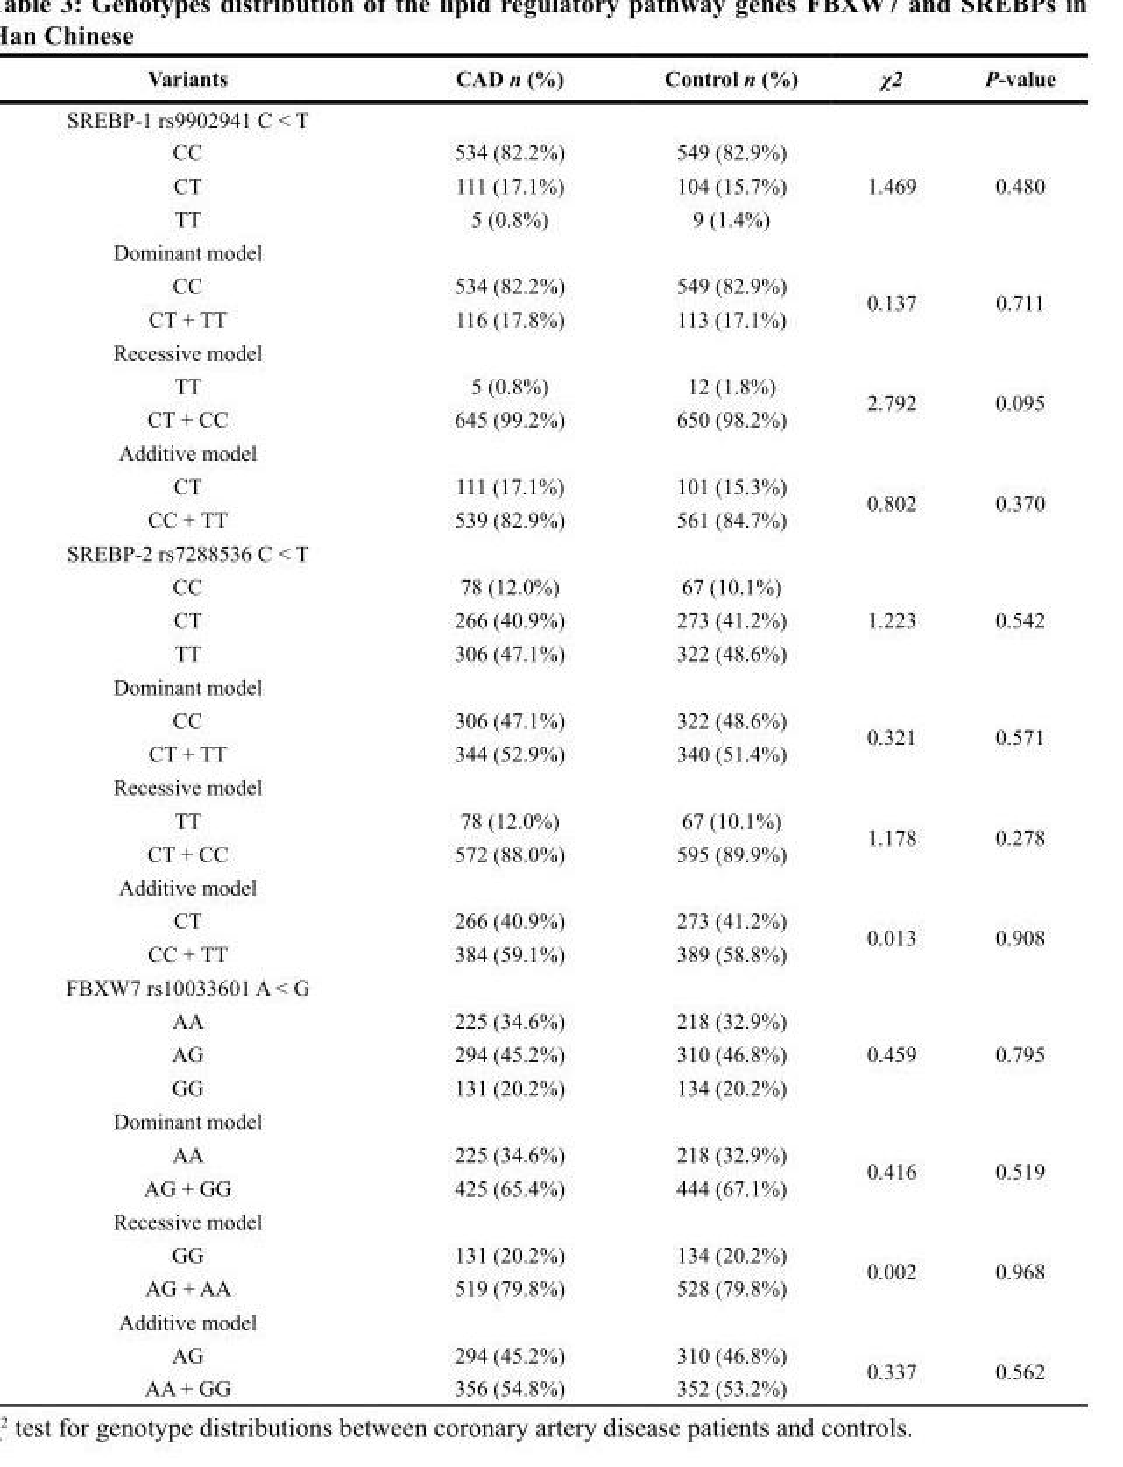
<table><thead><tr><td>Variants</td><td>CAD n (%)</td><td>Control n (%)</td><td>χ2</td><td>P-value</td></tr></thead><tbody><tr><td colspan="5">SREBP-1 rs9902941 C &lt; T</td></tr><tr><td>CC</td><td>534 (82.2%)</td><td>549 (82.9%)</td><td rowspan="3">1.469</td><td rowspan="3">0.480</td></tr><tr><td>CT</td><td>111 (17.1%)</td><td>104 (15.7%)</td></tr><tr><td>TT</td><td>5 (0.8%)</td><td>9 (1.4%)</td></tr><tr><td colspan="5">Dominant model</td></tr><tr><td>CC</td><td>534 (82.2%)</td><td>549 (82.9%)</td><td rowspan="2">0.137</td><td rowspan="2">0.711</td></tr><tr><td>CT + TT</td><td>116 (17.8%)</td><td>113 (17.1%)</td></tr><tr><td colspan="5">Recessive model</td></tr><tr><td>TT</td><td>5 (0.8%)</td><td>12 (1.8%)</td><td rowspan="2">2.792</td><td rowspan="2">0.095</td></tr><tr><td>CT + CC</td><td>645 (99.2%)</td><td>650 (98.2%)</td></tr><tr><td colspan="5">Additive model</td></tr><tr><td>CT</td><td>111 (17.1%)</td><td>101 (15.3%)</td><td rowspan="2">0.802</td><td rowspan="2">0.370</td></tr><tr><td>CC + TT</td><td>539 (82.9%)</td><td>561 (84.7%)</td></tr><tr><td colspan="5">SREBP-2 rs7288536 C &lt; T</td></tr><tr><td>CC</td><td>78 (12.0%)</td><td>67 (10.1%)</td><td rowspan="3">1.223</td><td rowspan="3">0.542</td></tr><tr><td>CT</td><td>266 (40.9%)</td><td>273 (41.2%)</td></tr><tr><td>TT</td><td>306 (47.1%)</td><td>322 (48.6%)</td></tr><tr><td colspan="5">Dominant model</td></tr><tr><td>CC</td><td>306 (47.1%)</td><td>322 (48.6%)</td><td rowspan="2">0.321</td><td rowspan="2">0.571</td></tr><tr><td>CT + TT</td><td>344 (52.9%)</td><td>340 (51.4%)</td></tr><tr><td colspan="5">Recessive model</td></tr><tr><td>TT</td><td>78 (12.0%)</td><td>67 (10.1%)</td><td rowspan="2">1.178</td><td rowspan="2">0.278</td></tr><tr><td>CT + CC</td><td>572 (88.0%)</td><td>595 (89.9%)</td></tr><tr><td colspan="5">Additive model</td></tr><tr><td>CT</td><td>266 (40.9%)</td><td>273 (41.2%)</td><td rowspan="2">0.013</td><td rowspan="2">0.908</td></tr><tr><td>CC + TT</td><td>384 (59.1%)</td><td>389 (58.8%)</td></tr><tr><td colspan="5">FBXW7 rs10033601 A &lt; G</td></tr><tr><td>AA</td><td>225 (34.6%)</td><td>218 (32.9%)</td><td rowspan="3">0.459</td><td rowspan="3">0.795</td></tr><tr><td>AG</td><td>294 (45.2%)</td><td>310 (46.8%)</td></tr><tr><td>GG</td><td>131 (20.2%)</td><td>134 (20.2%)</td></tr><tr><td colspan="5">Dominant model</td></tr><tr><td>AA</td><td>225 (34.6%)</td><td>218 (32.9%)</td><td rowspan="2">0.416</td><td rowspan="2">0.519</td></tr><tr><td>AG + GG</td><td>425 (65.4%)</td><td>444 (67.1%)</td></tr><tr><td colspan="5">Recessive model</td></tr><tr><td>GG</td><td>131 (20.2%)</td><td>134 (20.2%)</td><td rowspan="2">0.002</td><td rowspan="2">0.968</td></tr><tr><td>AG + AA</td><td>519 (79.8%)</td><td>528 (79.8%)</td></tr><tr><td colspan="5">Additive model</td></tr><tr><td>AG</td><td>294 (45.2%)</td><td>310 (46.8%)</td><td rowspan="2">0.337</td><td rowspan="2">0.562</td></tr><tr><td>AA + GG</td><td>356 (54.8%)</td><td>352 (53.2%)</td></tr></tbody></table>